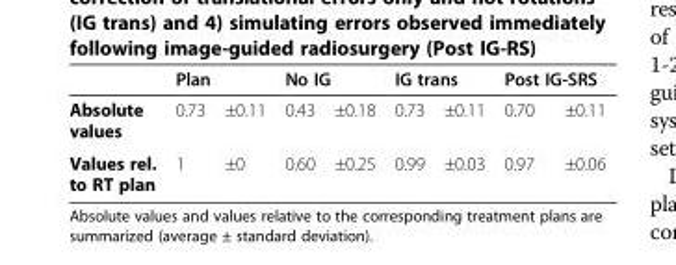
<table><thead><tr><td rowspan="2">Absolute values</td><td colspan="2">Plan</td><td colspan="2">No IG</td><td colspan="2">IG trans</td><td colspan="2">Post IG-SRS</td></tr><tr><td>0.73</td><td>±0.11</td><td>0.43</td><td>±0.18</td><td>0.73</td><td>±0.11</td><td>0.70</td><td>±0.11</td></tr></thead><tbody><tr><td>Values rel. to RT plan</td><td>1</td><td>±0</td><td>0.60</td><td>±0.25</td><td>0.99</td><td>±0.03</td><td>0.97</td><td>±0.06</td></tr></tbody></table>